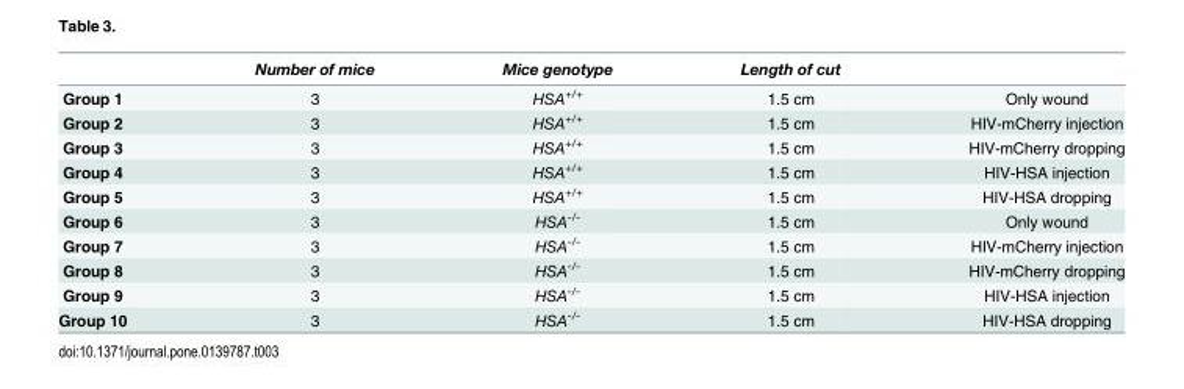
<table><thead><tr><td></td><td>Number of mice</td><td>Mice genotype</td><td>Length of cut</td><td></td></tr></thead><tbody><tr><td>Group 1</td><td>3</td><td>HSA<sup>+/+</sup></td><td>1.5 cm</td><td>Only wound</td></tr><tr><td>Group 2</td><td>3</td><td>HSA<sup>+/+</sup></td><td>1.5 cm</td><td>HIV-mCherry injection</td></tr><tr><td>Group 3</td><td>3</td><td>HSA<sup>+/+</sup></td><td>1.5 cm</td><td>HIV-mCherry dropping</td></tr><tr><td>Group 4</td><td>3</td><td>HSA<sup>+/+</sup></td><td>1.5 cm</td><td>HIV-HSA injection</td></tr><tr><td>Group 5</td><td>3</td><td>HSA<sup>+/+</sup></td><td>1.5 cm</td><td>HIV-HSA dropping</td></tr><tr><td>Group 6</td><td>3</td><td>HSA<sup>-/-</sup></td><td>1.5 cm</td><td>Only wound</td></tr><tr><td>Group 7</td><td>3</td><td>HSA<sup>-/-</sup></td><td>1.5 cm</td><td>HIV-mCherry injection</td></tr><tr><td>Group 8</td><td>3</td><td>HSA<sup>-/-</sup></td><td>1.5 cm</td><td>HIV-mCherry dropping</td></tr><tr><td>Group 9</td><td>3</td><td>HSA<sup>-/-</sup></td><td>1.5 cm</td><td>HIV-HSA injection</td></tr><tr><td>Group 10</td><td>3</td><td>HSA<sup>-/-</sup></td><td>1.5 cm</td><td>HIV-HSA dropping</td></tr></tbody></table>